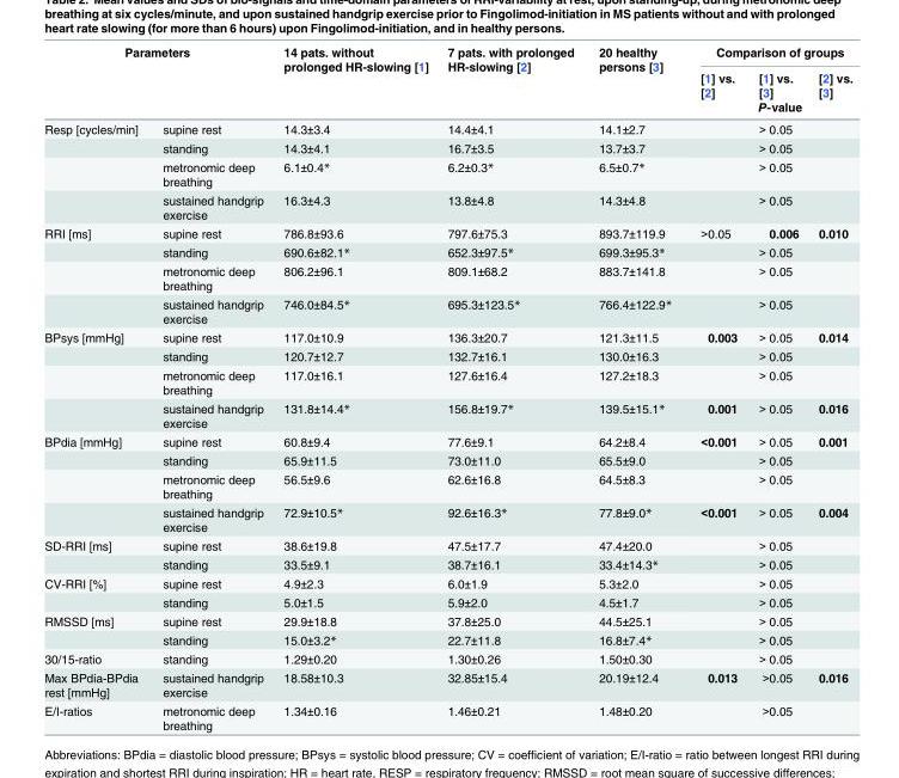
<table><thead><tr><td rowspan="3" colspan="2">Parameters</td><td rowspan="4">14 pats. without prolonged HR-slowing [1] 14.3±3.4</td><td rowspan="4">7 pats. with prolonged HR-slowing [2] 14.4±4.1</td><td rowspan="4">20 healthy persons [3] 14.1±2.7</td><td colspan="3">Comparison of groups</td></tr><tr><td>[1] vs. [2]</td><td>[1] vs. [3]</td><td>[2] vs. [3]</td></tr><tr><td colspan="3">P-value</td></tr><tr><td>Resp [cycles/min]</td><td>supine rest</td><td></td><td>&gt; 0.05</td><td></td></tr></thead><tbody><tr><td></td><td>standing</td><td>14.3±4.1</td><td>16.7±3.5</td><td>13.7±3.7</td><td></td><td>&gt; 0.05</td><td></td></tr><tr><td></td><td>metronomic deep breathing</td><td>6.1±0.4*</td><td>6.2±0.3*</td><td>6.5±0.7*</td><td></td><td>&gt; 0.05</td><td></td></tr><tr><td></td><td>sustained handgrip exercise</td><td>16.3±4.3</td><td>13.8±4.8</td><td>14.3±4.8</td><td></td><td>&gt; 0.05</td><td></td></tr><tr><td rowspan="4">RRI [ms]</td><td>supine rest</td><td>786.8±93.6</td><td>797.6±75.3</td><td>893.7±119.9</td><td>&gt;0.05</td><td>0.006</td><td>0.010</td></tr><tr><td>standing</td><td>690.6±82.1*</td><td>652.3±97.5*</td><td>699.3±95.3*</td><td></td><td>&gt; 0.05</td><td></td></tr><tr><td>metronomic deep breathing</td><td>806.2±96.1</td><td>809.1±68.2</td><td>883.7±141.8</td><td></td><td>&gt; 0.05</td><td></td></tr><tr><td>sustained handgrip exercise</td><td>746.0±84.5*</td><td>695.3±123.5*</td><td>766.4±122.9*</td><td></td><td>&gt; 0.05</td><td></td></tr><tr><td rowspan="4">BPsys [mmHg]</td><td>supine rest</td><td>117.0±10.9</td><td>136.3±20.7</td><td>121.3±11.5</td><td>0.003</td><td>&gt; 0.05</td><td>0.014</td></tr><tr><td>standing</td><td>120.7±12.7</td><td>132.7±16.1</td><td>130.0±16.3</td><td></td><td>&gt; 0.05</td><td></td></tr><tr><td>metronomic deep breathing</td><td>117.0±16.1</td><td>127.6±16.4</td><td>127.2±18.3</td><td></td><td>&gt; 0.05</td><td></td></tr><tr><td>sustained handgrip exercise</td><td>131.8±14.4*</td><td>156.8±19.7*</td><td>139.5±15.1*</td><td>0.001</td><td>&gt; 0.05</td><td>0.016</td></tr><tr><td rowspan="4">BPdia [mmHg]</td><td>supine rest</td><td>60.8±9.4</td><td>77.6±9.1</td><td>64.2±8.4</td><td>&lt;0.001</td><td>&gt; 0.05</td><td>0.001</td></tr><tr><td>standing</td><td>65.9±11.5</td><td>73.0±11.0</td><td>65.5±9.0</td><td></td><td>&gt; 0.05</td><td></td></tr><tr><td>metronomic deep breathing</td><td>56.5±9.6</td><td>62.6±16.8</td><td>64.5±8.3</td><td></td><td>&gt; 0.05</td><td></td></tr><tr><td>sustained handgrip exercise</td><td>72.9±10.5*</td><td>92.6±16.3*</td><td>77.8±9.0*</td><td>&lt;0.001</td><td>&gt; 0.05</td><td>0.004</td></tr><tr><td rowspan="2">SD-RRI [ms]</td><td>supine rest</td><td>38.6±19.8</td><td>47.5±17.7</td><td>47.4±20.0</td><td></td><td>&gt; 0.05</td><td></td></tr><tr><td>standing</td><td>33.5±9.1</td><td>38.7±16.1</td><td>33.4±14.3*</td><td></td><td>&gt; 0.05</td><td></td></tr><tr><td rowspan="2">CV-RRI [%]</td><td>supine rest</td><td>4.9±2.3</td><td>6.0±1.9</td><td>5.3±2.0</td><td></td><td>&gt; 0.05</td><td></td></tr><tr><td>standing</td><td>5.0±1.5</td><td>5.9±2.0</td><td>4.5±1.7</td><td></td><td>&gt; 0.05</td><td></td></tr><tr><td rowspan="2">RMSSD [ms]</td><td>supine rest</td><td>29.9±18.8</td><td>37.8±25.0</td><td>44.5±25.1</td><td></td><td>&gt; 0.05</td><td></td></tr><tr><td>standing</td><td>15.0±3.2*</td><td>22.7±11.8</td><td>16.8±7.4*</td><td></td><td>&gt; 0.05</td><td></td></tr><tr><td>30/15-ratio</td><td>standing</td><td>1.29±0.20</td><td>1.30±0.26</td><td>1.50±0.30</td><td></td><td>&gt; 0.05</td><td></td></tr><tr><td>Max BPdia-BPdia rest [mmHg]</td><td>sustained handgrip exercise</td><td>18.58±10.3</td><td>32.85±15.4</td><td>20.19±12.4</td><td>0.013</td><td>&gt;0.05</td><td>0.016</td></tr><tr><td>E/I-ratios</td><td>metronomic deep breathing</td><td>1.34±0.16</td><td>1.46±0.21</td><td>1.48±0.20</td><td></td><td>&gt;0.05</td><td></td></tr></tbody></table>